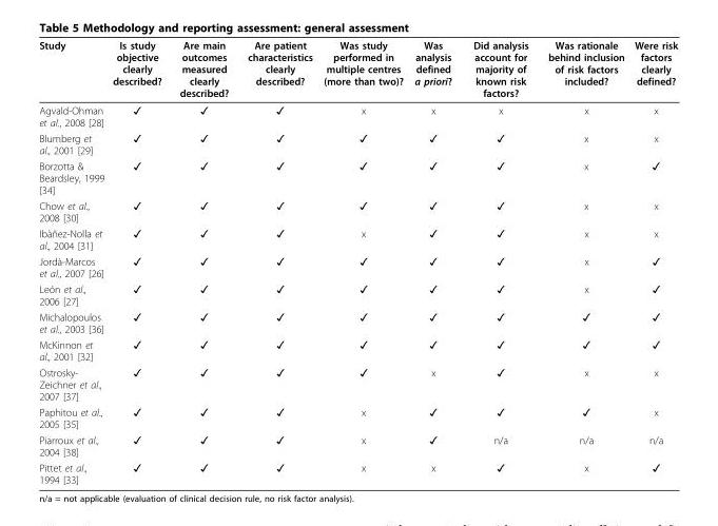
<table><thead><tr><td>Study</td><td>Is study objective clearly described?</td><td>Are main outcomes measured clearly described?</td><td>Are patient characteristics clearly described?</td><td>Was study performed in multiple centres (more than two)?</td><td>Was analysis defined a priori?</td><td>Did analysis account for majority of known risk factors?</td><td>Was rationale behind inclusion of risk factors included?</td><td>Were risk factors clearly defined?</td></tr></thead><tbody><tr><td>Agvald-Ohman et al., 2008 [28]</td><td>✓</td><td>✓</td><td>✓</td><td>x</td><td>x</td><td>x</td><td>x</td><td>x</td></tr><tr><td>Blumberg et al., 2001 [29]</td><td>✓</td><td>✓</td><td>✓</td><td>✓</td><td>✓</td><td>✓</td><td>x</td><td>x</td></tr><tr><td>Borzotta &amp; Beardsley, 1999 [34]</td><td>✓</td><td>✓</td><td>✓</td><td>✓</td><td>✓</td><td>✓</td><td>x</td><td>✓</td></tr><tr><td>Chow et al., 2008 [30]</td><td>✓</td><td>✓</td><td>✓</td><td>✓</td><td>✓</td><td>✓</td><td>x</td><td>x</td></tr><tr><td>Ibàñez-Nolla et al., 2004 [31]</td><td>✓</td><td>✓</td><td>✓</td><td>x</td><td>✓</td><td>✓</td><td>x</td><td>x</td></tr><tr><td>Jordà-Marcos et al., 2007 [26]</td><td>✓</td><td>✓</td><td>✓</td><td>✓</td><td>✓</td><td>✓</td><td>x</td><td>✓</td></tr><tr><td>León et al., 2006 [27]</td><td>✓</td><td>✓</td><td>✓</td><td>✓</td><td>✓</td><td>✓</td><td>x</td><td>✓</td></tr><tr><td>Michalopoulos et al., 2003 [36]</td><td>✓</td><td>✓</td><td>✓</td><td>✓</td><td>✓</td><td>✓</td><td>✓</td><td>✓</td></tr><tr><td>McKinnon et al., 2001 [32]</td><td>✓</td><td>✓</td><td>✓</td><td>✓</td><td>✓</td><td>✓</td><td>✓</td><td>✓</td></tr><tr><td>Ostrosky- Zeichner et al., 2007 [37]</td><td>✓</td><td>✓</td><td>✓</td><td>✓</td><td>x</td><td>✓</td><td>x</td><td>x</td></tr><tr><td>Paphitou et al., 2005 [35]</td><td>✓</td><td>✓</td><td>✓</td><td>x</td><td>✓</td><td>✓</td><td>✓</td><td>x</td></tr><tr><td>Piarroux et al., 2004 [38]</td><td>✓</td><td>✓</td><td>✓</td><td>x</td><td>✓</td><td>n/a</td><td>n/a</td><td>n/a</td></tr><tr><td>Pittet et al., 1994 [33]</td><td>✓</td><td>✓</td><td>✓</td><td>x</td><td>x</td><td>✓</td><td>x</td><td>✓</td></tr></tbody></table>